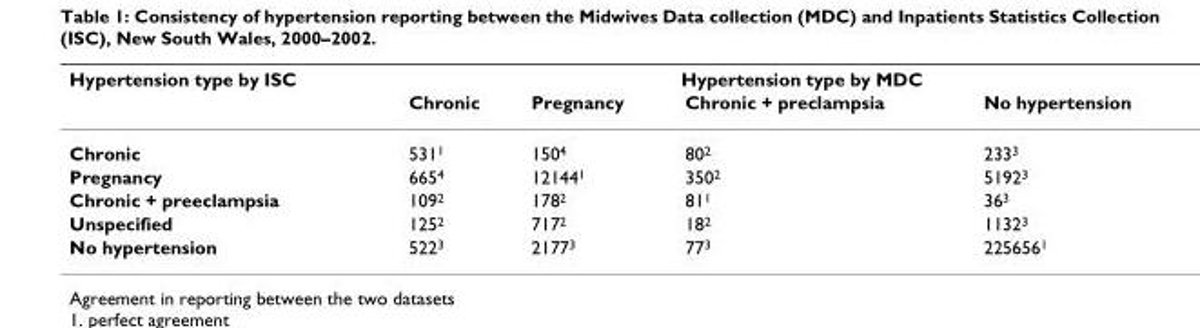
<table><thead><tr><td rowspan="2">Hypertension type by ISC</td><td colspan="4">Hypertension type by MDC</td></tr><tr><td>Chronic</td><td>Pregnancy</td><td>Chronic + preclampsia</td><td>No hypertension</td></tr></thead><tbody><tr><td>Chronic</td><td>531<sup>1</sup></td><td>150<sup>4</sup></td><td>80<sup>2</sup></td><td>233<sup>3</sup></td></tr><tr><td>Pregnancy</td><td>665<sup>4</sup></td><td>12144<sup>1</sup></td><td>350<sup>2</sup></td><td>5192<sup>3</sup></td></tr><tr><td>Chronic + preeclampsia</td><td>109<sup>2</sup></td><td>178<sup>2</sup></td><td>81<sup>1</sup></td><td>36<sup>3</sup></td></tr><tr><td>Unspecified</td><td>125<sup>2</sup></td><td>717<sup>2</sup></td><td>18<sup>2</sup></td><td>1132<sup>3</sup></td></tr><tr><td>No hypertension</td><td>522<sup>3</sup></td><td>2177<sup>3</sup></td><td>77<sup>3</sup></td><td>225656<sup>1</sup></td></tr></tbody></table>